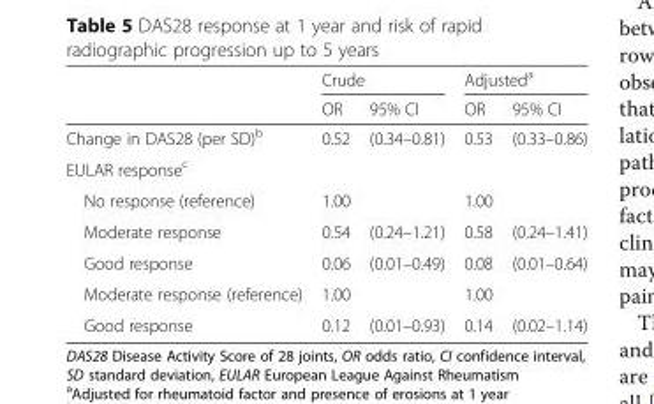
<table><thead><tr><td rowspan="2"></td><td colspan="2">Crude</td><td colspan="2">Adjusted<sup>a</sup></td></tr><tr><td>OR</td><td>95% CI</td><td>OR</td><td>95% CI</td></tr></thead><tbody><tr><td>Change in DAS28 (per SD)<sup>b</sup></td><td>0.52</td><td>(0.34–0.81)</td><td>0.53</td><td>(0.33–0.86)</td></tr><tr><td colspan="5">EULAR response<sup>c</sup></td></tr><tr><td>No response (reference)</td><td>1.00</td><td></td><td>1.00</td><td></td></tr><tr><td>Moderate response</td><td>0.54</td><td>(0.24–1.21)</td><td>0.58</td><td>(0.24–1.41)</td></tr><tr><td>Good response</td><td>0.06</td><td>(0.01–0.49)</td><td>0.08</td><td>(0.01–0.64)</td></tr><tr><td>Moderate response (reference)</td><td>1.00</td><td></td><td>1.00</td><td></td></tr><tr><td>Good response</td><td>0.12</td><td>(0.01–0.93)</td><td>0.14</td><td>(0.02–1.14)</td></tr></tbody></table>